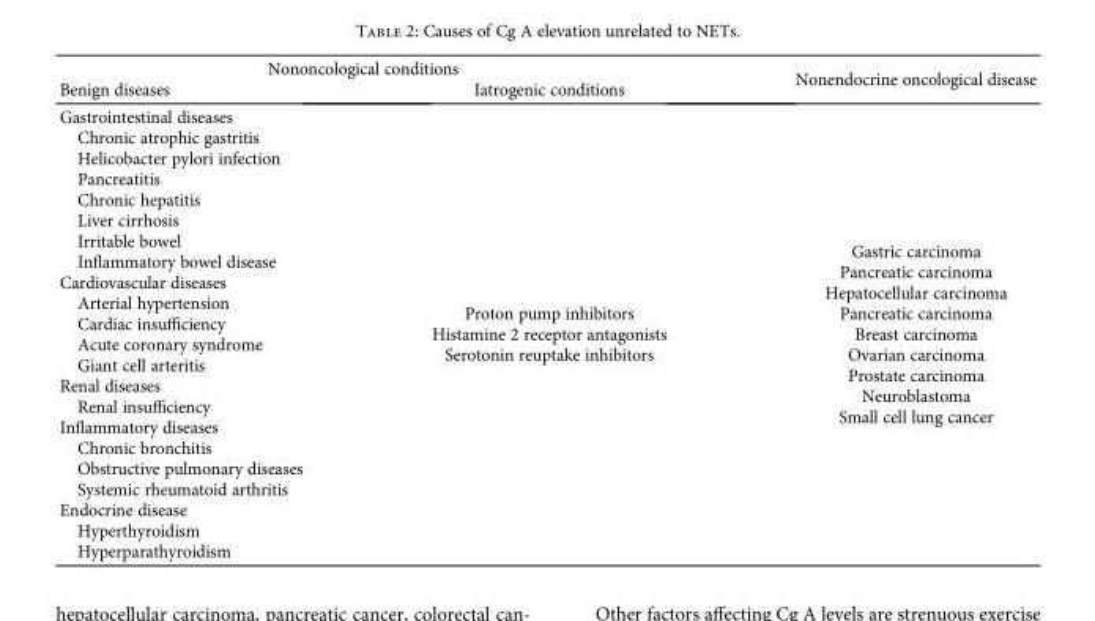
<table><thead><tr><td colspan="2">Nononcological conditions</td><td rowspan="2">Nonendocrine oncological disease</td></tr><tr><td>Benign diseases</td><td>Iatrogenic conditions</td></tr></thead><tbody><tr><td>Gastrointestinal diseases Chronic atrophic gastritis Helicobacter pylori infection Pancreatitis Chronic hepatitis Liver cirrhosis Irritable bowel Inflammatory bowel disease Cardiovascular diseases Arterial hypertension Cardiac insufficiency Acute coronary syndrome Giant cell arteritis Renal diseases Renal insufficiency Inflammatory diseases Chronic bronchitis Obstructive pulmonary diseases Systemic rheumatoid arthritis Endocrine disease Hyperthyroidism Hyperparathyroidism</td><td>Proton pump inhibitors Histamine 2 receptor antagonists Serotonin reuptake inhibitors</td><td>Gastric carcinoma Pancreatic carcinoma Hepatocellular carcinoma Pancreatic carcinoma Breast carcinoma Ovarian carcinoma Prostate carcinoma Neuroblastoma Small cell lung cancer</td></tr></tbody></table>